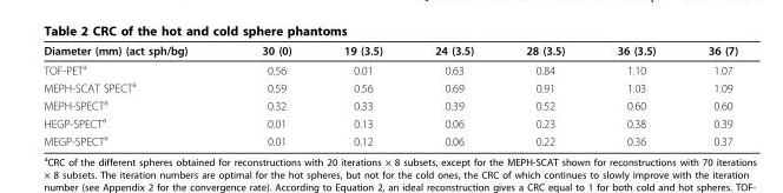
<table><thead><tr><td>Diameter (mm) (act sph/bg)</td><td>30 (0)</td><td>19 (3.5)</td><td>24 (3.5)</td><td>28 (3.5)</td><td>36 (3.5)</td><td>36 (7)</td></tr></thead><tbody><tr><td>TOF-PET<sup>a</sup></td><td>0.56</td><td>0.01</td><td>0.63</td><td>0.84</td><td>1.10</td><td>1.07</td></tr><tr><td>MEPH-SCAT SPECT<sup>a</sup></td><td>0.59</td><td>0.56</td><td>0.69</td><td>0.91</td><td>1.03</td><td>1.09</td></tr><tr><td>MEPH-SPECT<sup>a</sup></td><td>0.32</td><td>0.33</td><td>0.39</td><td>0.52</td><td>0.60</td><td>0.60</td></tr><tr><td>HEGP-SPECT<sup>a</sup></td><td>0.01</td><td>0.13</td><td>0.06</td><td>0.23</td><td>0.38</td><td>0.39</td></tr><tr><td>MEGP-SPECT<sup>a</sup></td><td>0.01</td><td>0.12</td><td>0.06</td><td>0.22</td><td>0.36</td><td>0.37</td></tr></tbody></table>